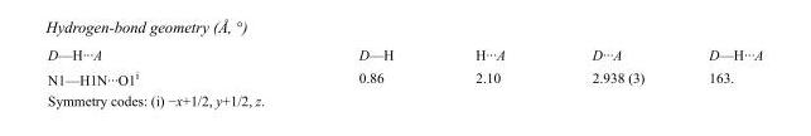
<table><tbody><tr><td>D—H···A</td><td>D—H</td><td>H···A</td><td>D···A</td><td>D—H···A</td></tr><tr><td>N1—H1N···O1<sup>i</sup></td><td>0.86</td><td>2.10</td><td>2.938 (3)</td><td>163.</td></tr></tbody></table>